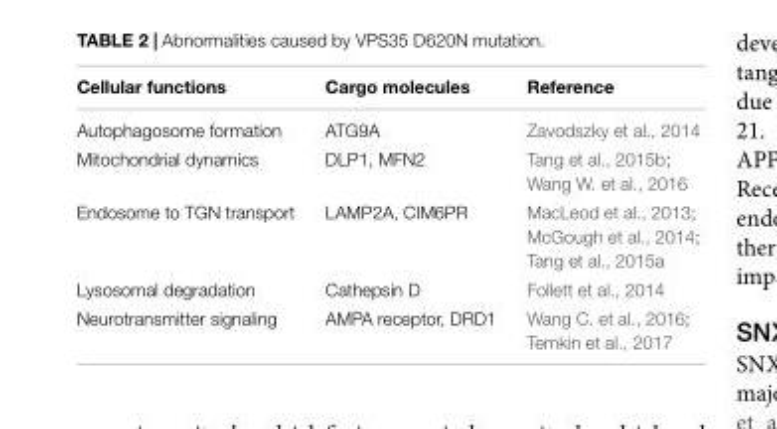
<table><thead><tr><td>Cellular functions</td><td>Cargo molecules</td><td>Reference</td></tr></thead><tbody><tr><td>Autophagosome formation</td><td>ATG9A</td><td>Zavodszky et al., 2014</td></tr><tr><td>Mitochondrial dynamics</td><td>DLP1, MFN2</td><td>Tang et al., 2015b; Wang W. et al., 2016</td></tr><tr><td>Endosome to TGN transport</td><td>LAMP2A, CIM6PR</td><td>MacLeod et al., 2013; McGough et al., 2014; Tang et al., 2015a</td></tr><tr><td>Lysosomal degradation</td><td>Cathepsin D</td><td>Follett et al., 2014</td></tr><tr><td>Neurotransmitter signaling</td><td>AMPA receptor, DRD1</td><td>Wang C. et al., 2016; Temkin et al., 2017</td></tr></tbody></table>